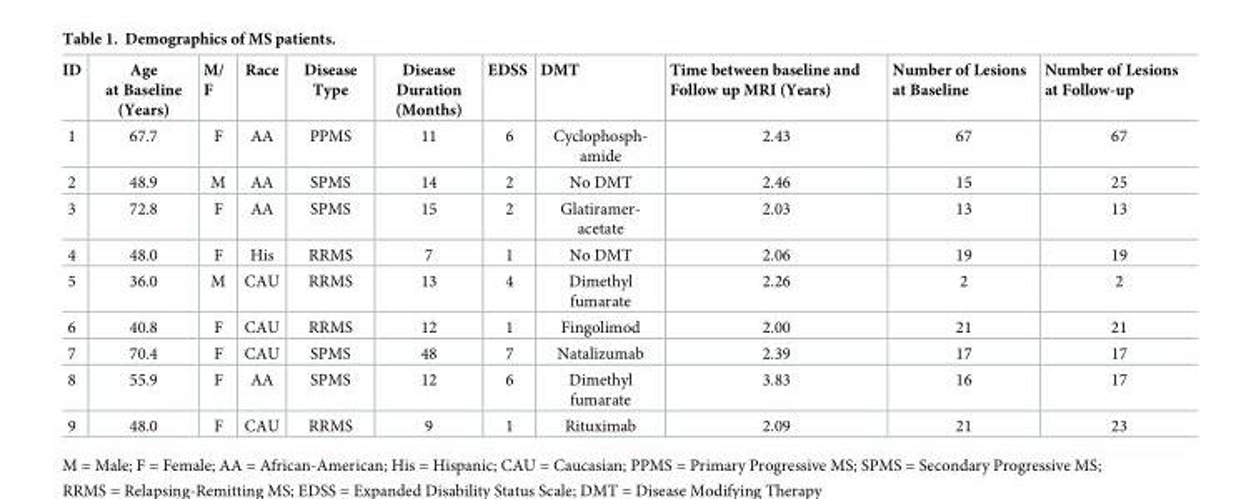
<table><thead><tr><td>ID</td><td>Age at Baseline (Years)</td><td>M/ F</td><td>Race</td><td>Disease Type</td><td>Disease Duration (Months)</td><td>EDSS</td><td>DMT</td><td>Time between baseline and Follow up MRI (Years)</td><td>Number of Lesions at Baseline</td><td>Number of Lesions at Follow-up</td></tr></thead><tbody><tr><td>1</td><td>67.7</td><td>F</td><td>AA</td><td>PPMS</td><td>11</td><td>6</td><td>Cyclophosph- amide</td><td>2.43</td><td>67</td><td>67</td></tr><tr><td>2</td><td>48.9</td><td>M</td><td>AA</td><td>SPMS</td><td>14</td><td>2</td><td>No DMT</td><td>2.46</td><td>15</td><td>25</td></tr><tr><td>3</td><td>72.8</td><td>F</td><td>AA</td><td>SPMS</td><td>15</td><td>2</td><td>Glatiramer- acetate</td><td>2.03</td><td>13</td><td>13</td></tr><tr><td>4</td><td>48.0</td><td>F</td><td>His</td><td>RRMS</td><td>7</td><td>1</td><td>No DMT</td><td>2.06</td><td>19</td><td>19</td></tr><tr><td>5</td><td>36.0</td><td>M</td><td>CAU</td><td>RRMS</td><td>13</td><td>4</td><td>Dimethyl fumarate</td><td>2.26</td><td>2</td><td>2</td></tr><tr><td>6</td><td>40.8</td><td>F</td><td>CAU</td><td>RRMS</td><td>12</td><td>1</td><td>Fingolimod</td><td>2.00</td><td>21</td><td>21</td></tr><tr><td>7</td><td>70.4</td><td>F</td><td>CAU</td><td>SPMS</td><td>48</td><td>7</td><td>Natalizumab</td><td>2.39</td><td>17</td><td>17</td></tr><tr><td>8</td><td>55.9</td><td>F</td><td>AA</td><td>SPMS</td><td>12</td><td>6</td><td>Dimethyl fumarate</td><td>3.83</td><td>16</td><td>17</td></tr><tr><td>9</td><td>48.0</td><td>F</td><td>CAU</td><td>RRMS</td><td>9</td><td>1</td><td>Rituximab</td><td>2.09</td><td>21</td><td>23</td></tr></tbody></table>